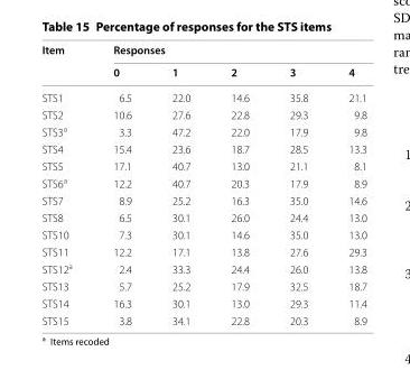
<table><thead><tr><td rowspan="2">Item</td><td colspan="5">Responses</td></tr><tr><td>0</td><td>1</td><td>2</td><td>3</td><td>4</td></tr></thead><tbody><tr><td>STS1</td><td>6.5</td><td>22.0</td><td>14.6</td><td>35.8</td><td>21.1</td></tr><tr><td>STS2</td><td>10.6</td><td>27.6</td><td>22.8</td><td>29.3</td><td>9.8</td></tr><tr><td>STS3<sup>a</sup></td><td>3.3</td><td>47.2</td><td>22.0</td><td>17.9</td><td>9.8</td></tr><tr><td>STS4</td><td>15.4</td><td>23.6</td><td>18.7</td><td>28.5</td><td>13.3</td></tr><tr><td>STS5</td><td>17.1</td><td>40.7</td><td>13.0</td><td>21.1</td><td>8.1</td></tr><tr><td>STS6<sup>a</sup></td><td>12.2</td><td>40.7</td><td>20.3</td><td>17.9</td><td>8.9</td></tr><tr><td>STS7</td><td>8.9</td><td>25.2</td><td>16.3</td><td>35.0</td><td>14.6</td></tr><tr><td>STS8</td><td>6.5</td><td>30.1</td><td>26.0</td><td>24.4</td><td>13.0</td></tr><tr><td>STS10</td><td>7.3</td><td>30.1</td><td>14.6</td><td>35.0</td><td>13.0</td></tr><tr><td>STS11</td><td>12.2</td><td>17.1</td><td>13.8</td><td>27.6</td><td>29.3</td></tr><tr><td>STS12<sup>a</sup></td><td>2.4</td><td>33.3</td><td>24.4</td><td>26.0</td><td>13.8</td></tr><tr><td>STS13</td><td>5.7</td><td>25.2</td><td>17.9</td><td>32.5</td><td>18.7</td></tr><tr><td>STS14</td><td>16.3</td><td>30.1</td><td>13.0</td><td>29.3</td><td>11.4</td></tr><tr><td>STS15</td><td>3.8</td><td>34.1</td><td>22.8</td><td>20.3</td><td>8.9</td></tr></tbody></table>